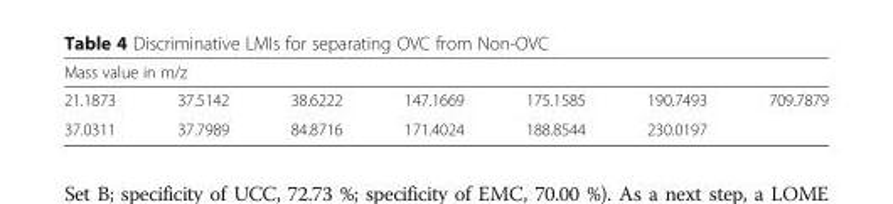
<table><thead><tr><td colspan="7">Mass value in m/z</td></tr><tr><td>21.1873</td><td>37.5142</td><td>38.6222</td><td>147.1669</td><td>175.1585</td><td>190.7493</td><td>709.7879</td></tr></thead><tbody><tr><td>37.0311</td><td>37.7989</td><td>84.8716</td><td>171.4024</td><td>188.8544</td><td>230.0197</td><td></td></tr></tbody></table>